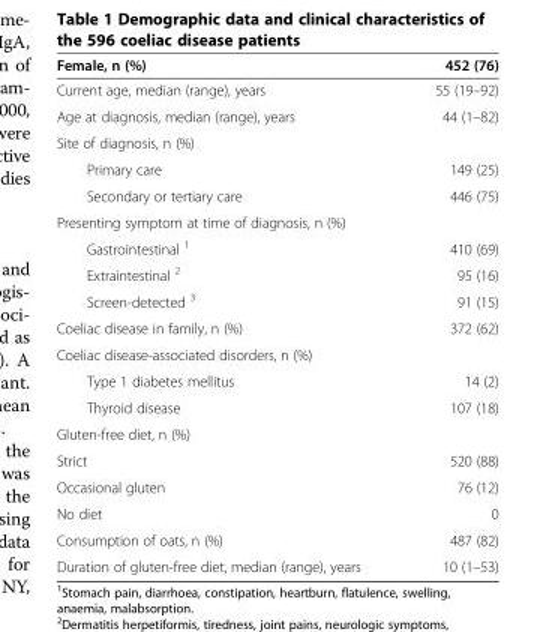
<table><thead><tr><td>Female, n (%)</td><td>452 (76)</td></tr></thead><tbody><tr><td>Current age, median (range), years</td><td>55 (19–92)</td></tr><tr><td>Age at diagnosis, median (range), years</td><td>44 (1–82)</td></tr><tr><td colspan="2">Site of diagnosis, n (%)</td></tr><tr><td>Primary care</td><td>149 (25)</td></tr><tr><td>Secondary or tertiary care</td><td>446 (75)</td></tr><tr><td colspan="2">Presenting symptom at time of diagnosis, n (%)</td></tr><tr><td>Gastrointestinal <sup>1</sup></td><td>410 (69)</td></tr><tr><td>Extraintestinal <sup>2</sup></td><td>95 (16)</td></tr><tr><td>Screen-detected <sup>3</sup></td><td>91 (15)</td></tr><tr><td>Coeliac disease in family, n (%)</td><td>372 (62)</td></tr><tr><td colspan="2">Coeliac disease-associated disorders, n (%)</td></tr><tr><td>Type 1 diabetes mellitus</td><td>14 (2)</td></tr><tr><td>Thyroid disease</td><td>107 (18)</td></tr><tr><td colspan="2">Gluten-free diet, n (%)</td></tr><tr><td>Strict</td><td>520 (88)</td></tr><tr><td>Occasional gluten</td><td>76 (12)</td></tr><tr><td>No diet</td><td>0</td></tr><tr><td>Consumption of oats, n (%)</td><td>487 (82)</td></tr><tr><td>Duration of gluten-free diet, median (range), years</td><td>10 (1–53)</td></tr></tbody></table>